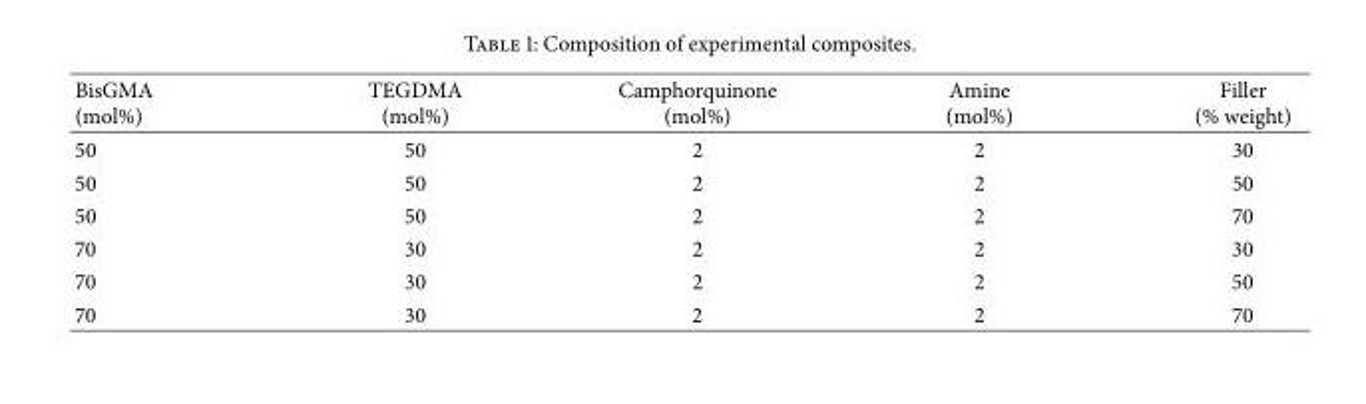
<table><thead><tr><td>BisGMA (mol%)</td><td>TEGDMA (mol%)</td><td>Camphorquinone (mol%)</td><td>Amine (mol%)</td><td>Filler (% weight)</td></tr></thead><tbody><tr><td>50</td><td>50</td><td>2</td><td>2</td><td>30</td></tr><tr><td>50</td><td>50</td><td>2</td><td>2</td><td>50</td></tr><tr><td>50</td><td>50</td><td>2</td><td>2</td><td>70</td></tr><tr><td>70</td><td>30</td><td>2</td><td>2</td><td>30</td></tr><tr><td>70</td><td>30</td><td>2</td><td>2</td><td>50</td></tr><tr><td>70</td><td>30</td><td>2</td><td>2</td><td>70</td></tr></tbody></table>